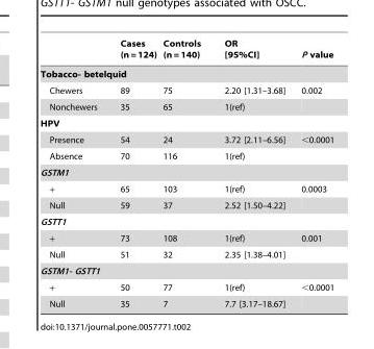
<table><thead><tr><td></td><td>Cases (n = 124)</td><td>Controls (n = 140)</td><td>OR [95%CI]</td><td>P value</td></tr></thead><tbody><tr><td colspan="5">Tobacco- betelquid</td></tr><tr><td>Chewers</td><td>89</td><td>75</td><td>2.20 [1.31–3.68]</td><td>0.002</td></tr><tr><td>Nonchewers</td><td>35</td><td>65</td><td>1(ref)</td><td></td></tr><tr><td colspan="5">HPV</td></tr><tr><td>Presence</td><td>54</td><td>24</td><td>3.72 [2.11–6.56]</td><td>&lt;0.0001</td></tr><tr><td>Absence</td><td>70</td><td>116</td><td>1(ref)</td><td></td></tr><tr><td colspan="5">GSTM1</td></tr><tr><td>+</td><td>65</td><td>103</td><td>1(ref)</td><td>0.0003</td></tr><tr><td>Null</td><td>59</td><td>37</td><td>2.52 [1.50–4.22]</td><td></td></tr><tr><td colspan="5">GSTT1</td></tr><tr><td>+</td><td>73</td><td>108</td><td>1(ref)</td><td>0.001</td></tr><tr><td>Null</td><td>51</td><td>32</td><td>2.35 [1.38–4.01]</td><td></td></tr><tr><td colspan="5">GSTM1- GSTT1</td></tr><tr><td>+</td><td>50</td><td>77</td><td>1(ref)</td><td>&lt;0.0001</td></tr><tr><td>Null</td><td>35</td><td>7</td><td>7.7 [3.17–18.67]</td><td></td></tr></tbody></table>